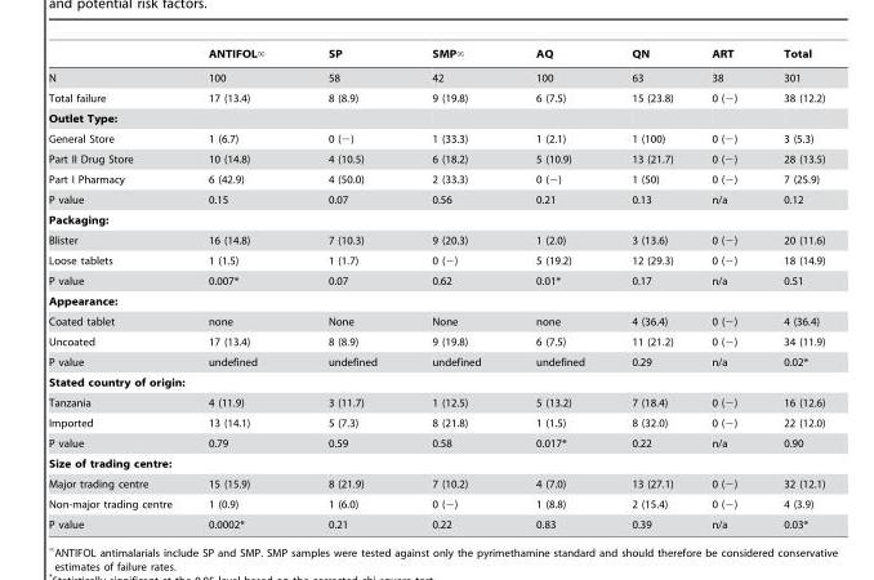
<table><thead><tr><td></td><td>ANTIFOL‘</td><td>SP</td><td>SMP‘</td><td>AQ</td><td>QN</td><td>ART</td><td>Total</td></tr></thead><tbody><tr><td>N</td><td>100</td><td>58</td><td>42</td><td>100</td><td>63</td><td>38</td><td>301</td></tr><tr><td>Total failure</td><td>17 (13.4)</td><td>8 (8.9)</td><td>9 (19.8)</td><td>6 (7.5)</td><td>15 (23.8)</td><td>0 (−)</td><td>38 (12.2)</td></tr><tr><td colspan="8">Outlet Type:</td></tr><tr><td>General Store</td><td>1 (6.7)</td><td>0 (−)</td><td>1 (33.3)</td><td>1 (2.1)</td><td>1 (100)</td><td>0 (−)</td><td>3 (5.3)</td></tr><tr><td>Part II Drug Store</td><td>10 (14.8)</td><td>4 (10.5)</td><td>6 (18.2)</td><td>5 (10.9)</td><td>13 (21.7)</td><td>0 (−)</td><td>28 (13.5)</td></tr><tr><td>Part I Pharmacy</td><td>6 (42.9)</td><td>4 (50.0)</td><td>2 (33.3)</td><td>0 (−)</td><td>1 (50)</td><td>0 (−)</td><td>7 (25.9)</td></tr><tr><td>P value</td><td>0.15</td><td>0.07</td><td>0.56</td><td>0.21</td><td>0.13</td><td>n/a</td><td>0.12</td></tr><tr><td colspan="8">Packaging:</td></tr><tr><td>Blister</td><td>16 (14.8)</td><td>7 (10.3)</td><td>9 (20.3)</td><td>1 (2.0)</td><td>3 (13.6)</td><td>0 (−)</td><td>20 (11.6)</td></tr><tr><td>Loose tablets</td><td>1 (1.5)</td><td>1 (1.7)</td><td>0 (−)</td><td>5 (19.2)</td><td>12 (29.3)</td><td>0 (−)</td><td>18 (14.9)</td></tr><tr><td>P value</td><td>0.007*</td><td>0.07</td><td>0.62</td><td>0.01*</td><td>0.17</td><td>n/a</td><td>0.51</td></tr><tr><td colspan="8">Appearance:</td></tr><tr><td>Coated tablet</td><td>none</td><td>None</td><td>None</td><td>none</td><td>4 (36.4)</td><td>0 (−)</td><td>4 (36.4)</td></tr><tr><td>Uncoated</td><td>17 (13.4)</td><td>8 (8.9)</td><td>9 (19.8)</td><td>6 (7.5)</td><td>11 (21.2)</td><td>0 (−)</td><td>34 (11.9)</td></tr><tr><td>P value</td><td>undefined</td><td>undefined</td><td>undefined</td><td>undefined</td><td>0.29</td><td>n/a</td><td>0.02*</td></tr><tr><td colspan="8">Stated country of origin:</td></tr><tr><td>Tanzania</td><td>4 (11.9)</td><td>3 (11.7)</td><td>1 (12.5)</td><td>5 (13.2)</td><td>7 (18.4)</td><td>0 (−)</td><td>16 (12.6)</td></tr><tr><td>Imported</td><td>13 (14.1)</td><td>5 (7.3)</td><td>8 (21.8)</td><td>1 (1.5)</td><td>8 (32.0)</td><td>0 (−)</td><td>22 (12.0)</td></tr><tr><td>P value</td><td>0.79</td><td>0.59</td><td>0.58</td><td>0.017*</td><td>0.22</td><td>n/a</td><td>0.90</td></tr><tr><td colspan="8">Size of trading centre:</td></tr><tr><td>Major trading centre</td><td>15 (15.9)</td><td>8 (21.9)</td><td>7 (10.2)</td><td>4 (7.0)</td><td>13 (27.1)</td><td>0 (−)</td><td>32 (12.1)</td></tr><tr><td>Non-major trading centre</td><td>1 (0.9)</td><td>1 (6.0)</td><td>0 (−)</td><td>1 (8.8)</td><td>2 (15.4)</td><td>0 (−)</td><td>4 (3.9)</td></tr><tr><td>P value</td><td>0.0002*</td><td>0.21</td><td>0.22</td><td>0.83</td><td>0.39</td><td>n/a</td><td>0.03*</td></tr></tbody></table>